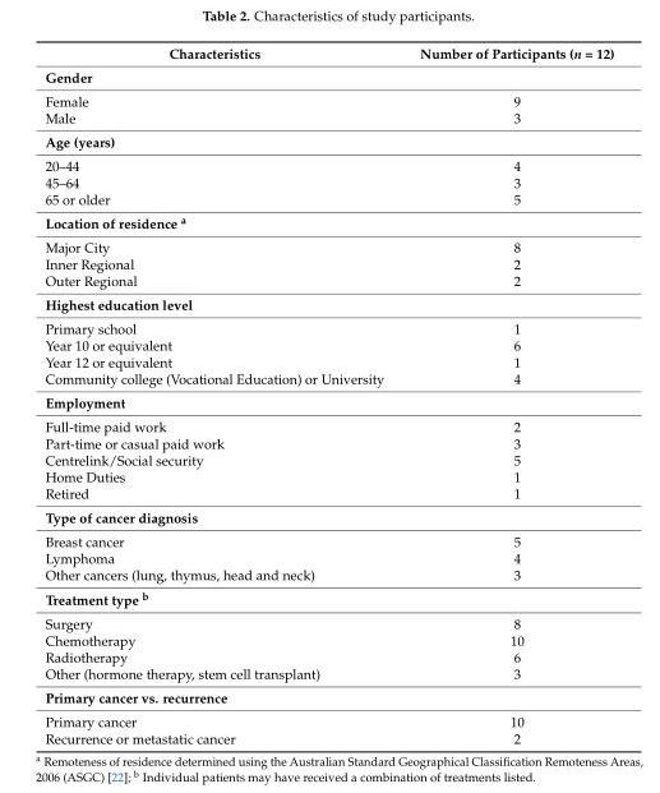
<table><thead><tr><td>Characteristics</td><td>Number of Participants (n = 12)</td></tr></thead><tbody><tr><td colspan="2">Gender</td></tr><tr><td>Female</td><td>9</td></tr><tr><td>Male</td><td>3</td></tr><tr><td colspan="2">Age (years)</td></tr><tr><td>20–44</td><td>4</td></tr><tr><td>45–64</td><td>3</td></tr><tr><td>65 or older</td><td>5</td></tr><tr><td colspan="2">Location of residence <sup>a</sup></td></tr><tr><td>Major City</td><td>8</td></tr><tr><td>Inner Regional</td><td>2</td></tr><tr><td>Outer Regional</td><td>2</td></tr><tr><td colspan="2">Highest education level</td></tr><tr><td>Primary school</td><td>1</td></tr><tr><td>Year 10 or equivalent</td><td>6</td></tr><tr><td>Year 12 or equivalent</td><td>1</td></tr><tr><td>Community college (Vocational Education) or University</td><td>4</td></tr><tr><td colspan="2">Employment</td></tr><tr><td>Full-time paid work</td><td>2</td></tr><tr><td>Part-time or casual paid work</td><td>3</td></tr><tr><td>Centrelink/Social security</td><td>5</td></tr><tr><td>Home Duties</td><td>1</td></tr><tr><td>Retired</td><td>1</td></tr><tr><td colspan="2">Type of cancer diagnosis</td></tr><tr><td>Breast cancer</td><td>5</td></tr><tr><td>Lymphoma</td><td>4</td></tr><tr><td>Other cancers (lung, thymus, head and neck)</td><td>3</td></tr><tr><td colspan="2">Treatment type <sup>b</sup></td></tr><tr><td>Surgery</td><td>8</td></tr><tr><td>Chemotherapy</td><td>10</td></tr><tr><td>Radiotherapy</td><td>6</td></tr><tr><td>Other (hormone therapy, stem cell transplant)</td><td>3</td></tr><tr><td colspan="2">Primary cancer vs. recurrence</td></tr><tr><td>Primary cancer</td><td>10</td></tr><tr><td>Recurrence or metastatic cancer</td><td>2</td></tr></tbody></table>